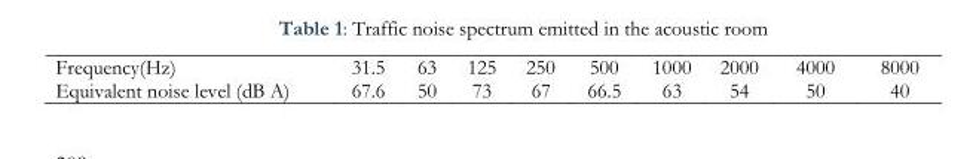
<table><tbody><tr><td>Frequency(Hz)</td><td>31.5</td><td>63</td><td>125</td><td>250</td><td>500</td><td>1000</td><td>2000</td><td>4000</td><td>8000</td></tr><tr><td>Equivalent noise level (dB A)</td><td>67.6</td><td>50</td><td>73</td><td>67</td><td>66.5</td><td>63</td><td>54</td><td>50</td><td>40</td></tr></tbody></table>